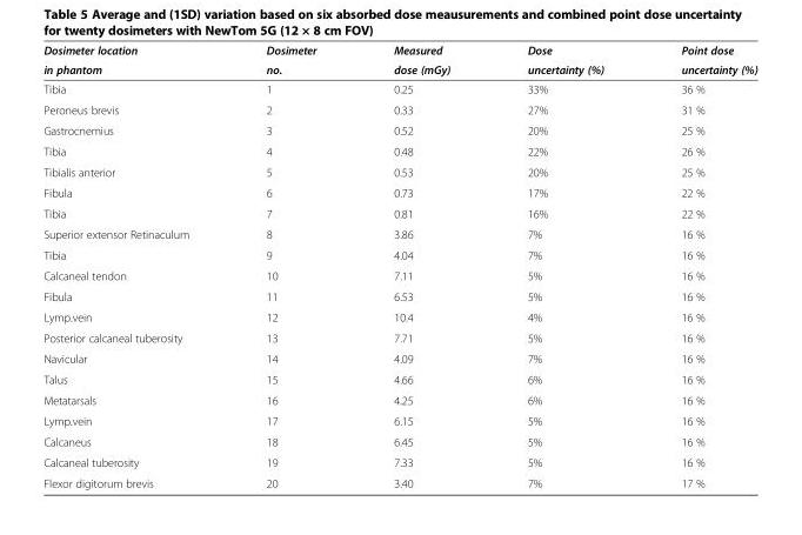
<table><thead><tr><td rowspan="2">Dosimeter location in phantom</td><td rowspan="2">Dosimeter no.</td><td rowspan="2">Measured dose (mGy)</td><td rowspan="2">Dose uncertainty (%)</td><td rowspan="2">Point dose uncertainty (%)</td></tr><tr></tr></thead><tbody><tr><td>Tibia</td><td>1</td><td>0.25</td><td>33%</td><td>36 %</td></tr><tr><td>Peroneus brevis</td><td>2</td><td>0.33</td><td>27%</td><td>31 %</td></tr><tr><td>Gastrocnemius</td><td>3</td><td>0.52</td><td>20%</td><td>25 %</td></tr><tr><td>Tibia</td><td>4</td><td>0.48</td><td>22%</td><td>26 %</td></tr><tr><td>Tibialis anterior</td><td>5</td><td>0.53</td><td>20%</td><td>25 %</td></tr><tr><td>Fibula</td><td>6</td><td>0.73</td><td>17%</td><td>22 %</td></tr><tr><td>Tibia</td><td>7</td><td>0.81</td><td>16%</td><td>22 %</td></tr><tr><td>Superior extensor Retinaculum</td><td>8</td><td>3.86</td><td>7%</td><td>16 %</td></tr><tr><td>Tibia</td><td>9</td><td>4.04</td><td>7%</td><td>16 %</td></tr><tr><td>Calcaneal tendon</td><td>10</td><td>7.11</td><td>5%</td><td>16 %</td></tr><tr><td>Fibula</td><td>11</td><td>6.53</td><td>5%</td><td>16 %</td></tr><tr><td>Lymp.vein</td><td>12</td><td>10.4</td><td>4%</td><td>16 %</td></tr><tr><td>Posterior calcaneal tuberosity</td><td>13</td><td>7.71</td><td>5%</td><td>16 %</td></tr><tr><td>Navicular</td><td>14</td><td>4.09</td><td>7%</td><td>16 %</td></tr><tr><td>Talus</td><td>15</td><td>4.66</td><td>6%</td><td>16 %</td></tr><tr><td>Metatarsals</td><td>16</td><td>4.25</td><td>6%</td><td>16 %</td></tr><tr><td>Lymp.vein</td><td>17</td><td>6.15</td><td>5%</td><td>16 %</td></tr><tr><td>Calcaneus</td><td>18</td><td>6.45</td><td>5%</td><td>16 %</td></tr><tr><td>Calcaneal tuberosity</td><td>19</td><td>7.33</td><td>5%</td><td>16 %</td></tr><tr><td>Flexor digitorum brevis</td><td>20</td><td>3.40</td><td>7%</td><td>17 %</td></tr></tbody></table>